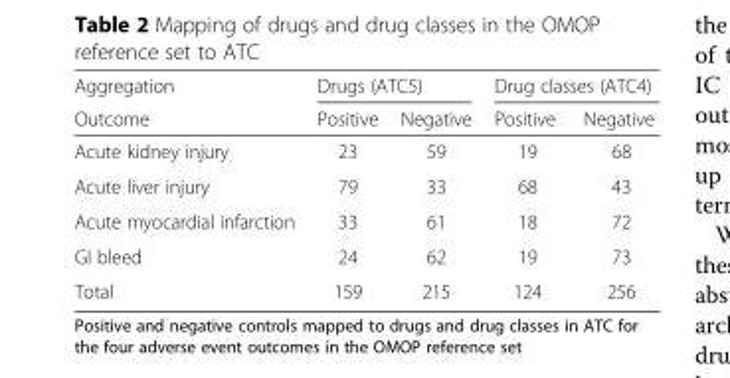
<table><thead><tr><td rowspan="2">Aggregation Outcome</td><td colspan="2">Drugs (ATC5)</td><td colspan="2">Drug classes (ATC4)</td></tr><tr><td>Positive</td><td>Negative</td><td>Positive</td><td>Negative</td></tr></thead><tbody><tr><td>Acute kidney injury</td><td>23</td><td>59</td><td>19</td><td>68</td></tr><tr><td>Acute liver injury</td><td>79</td><td>33</td><td>68</td><td>43</td></tr><tr><td>Acute myocardial infarction</td><td>33</td><td>61</td><td>18</td><td>72</td></tr><tr><td>GI bleed</td><td>24</td><td>62</td><td>19</td><td>73</td></tr><tr><td>Total</td><td>159</td><td>215</td><td>124</td><td>256</td></tr></tbody></table>